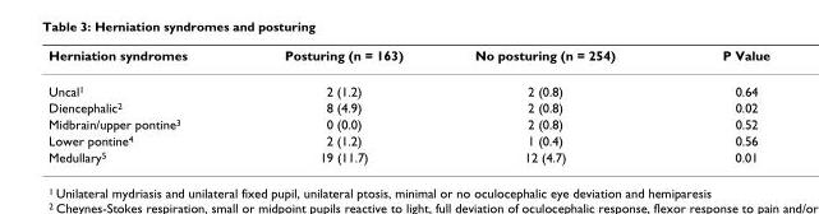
<table><thead><tr><td>Herniation syndromes</td><td>Posturing (n = 163)</td><td>No posturing (n = 254)</td><td>P Value</td></tr></thead><tbody><tr><td>Uncal<sup>1</sup></td><td>2 (1.2)</td><td>2 (0.8)</td><td>0.64</td></tr><tr><td>Diencephalic<sup>2</sup></td><td>8 (4.9)</td><td>2 (0.8)</td><td>0.02</td></tr><tr><td>Midbrain/upper pontine<sup>3</sup></td><td>0 (0.0)</td><td>2 (0.8)</td><td>0.52</td></tr><tr><td>Lower pontine<sup>4</sup></td><td>2 (1.2)</td><td>1 (0.4)</td><td>0.56</td></tr><tr><td>Medullary<sup>5</sup></td><td>19 (11.7)</td><td>12 (4.7)</td><td>0.01</td></tr></tbody></table>